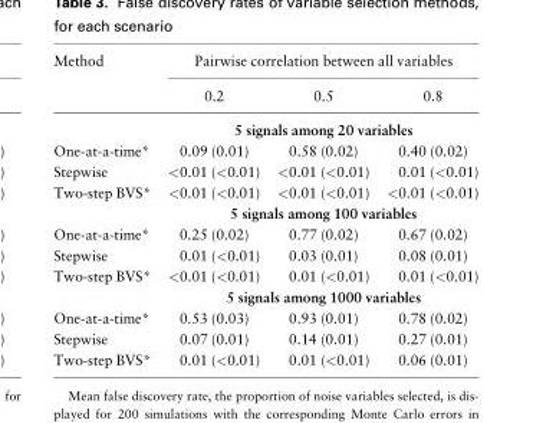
<table><thead><tr><td rowspan="2">Method</td><td colspan="3">Pairwise correlation between all variables</td></tr><tr><td>0.2</td><td>0.5</td><td>0.8</td></tr></thead><tbody><tr><td></td><td colspan="3">5 signals among 20 variables</td></tr><tr><td>One-at-a-time*</td><td>0.09 (0.01)</td><td>0.58 (0.02)</td><td>0.40 (0.02)</td></tr><tr><td>Stepwise</td><td>&lt;0.01 (&lt;0.01)</td><td>&lt;0.01 (&lt;0.01)</td><td>0.01 (&lt;0.01)</td></tr><tr><td rowspan="2">Two-step BVS*</td><td>&lt;0.01 (&lt;0.01)</td><td>&lt;0.01 (&lt;0.01)</td><td>&lt;0.01 (&lt;0.01)</td></tr><tr><td colspan="3">5 signals among 100 variables</td></tr><tr><td>One-at-a-time*</td><td>0.25 (0.02)</td><td>0.77 (0.02)</td><td>0.67 (0.02)</td></tr><tr><td>Stepwise</td><td>0.01 (&lt;0.01)</td><td>0.03 (0.01)</td><td>0.08 (0.01)</td></tr><tr><td rowspan="2">Two-step BVS*</td><td>&lt;0.01 (&lt;0.01)</td><td>0.01 (&lt;0.01)</td><td>0.01 (&lt;0.01)</td></tr><tr><td colspan="3">5 signals among 1000 variables</td></tr><tr><td>One-at-a-time*</td><td>0.53 (0.03)</td><td>0.93 (0.01)</td><td>0.78 (0.02)</td></tr><tr><td>Stepwise</td><td>0.07 (0.01)</td><td>0.14 (0.01)</td><td>0.27 (0.01)</td></tr><tr><td>Two-step BVS*</td><td>0.01 (&lt;0.01)</td><td>0.01 (&lt;0.01)</td><td>0.06 (0.01)</td></tr></tbody></table>